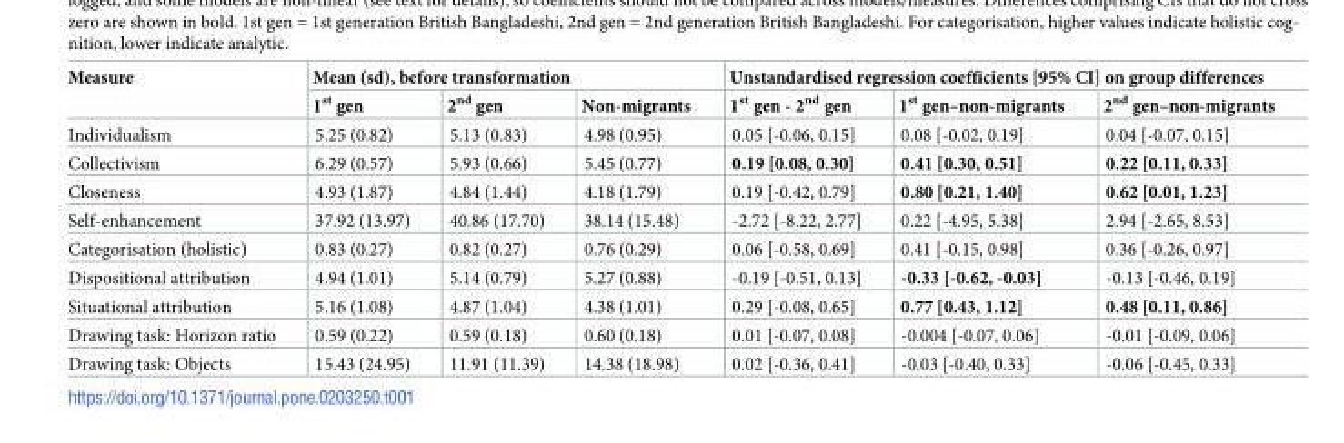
<table><thead><tr><td rowspan="2">Measure</td><td colspan="3">Mean (sd), before transformation</td><td colspan="3">Unstandardised regression coefficients [95% CI] on group differences</td></tr><tr><td>1<sup>st</sup> gen</td><td>2<sup>nd</sup> gen</td><td>Non-migrants</td><td>1<sup>st</sup> gen - 2<sup>nd</sup> gen</td><td>1<sup>st</sup> gen–non-migrants</td><td>2<sup>nd</sup> gen–non-migrants</td></tr></thead><tbody><tr><td>Individualism</td><td>5.25 (0.82)</td><td>5.13 (0.83)</td><td>4.98 (0.95)</td><td>0.05 [-0.06, 0.15]</td><td>0.08 [-0.02, 0.19]</td><td>0.04 [-0.07, 0.15]</td></tr><tr><td>Collectivism</td><td>6.29 (0.57)</td><td>5.93 (0.66)</td><td>5.45 (0.77)</td><td>0.19 [0.08, 0.30]</td><td>0.41 [0.30, 0.51]</td><td>0.22 [0.11, 0.33]</td></tr><tr><td>Closeness</td><td>4.93 (1.87)</td><td>4.84 (1.44)</td><td>4.18 (1.79)</td><td>0.19 [-0.42, 0.79]</td><td>0.80 [0.21, 1.40]</td><td>0.62 [0.01, 1.23]</td></tr><tr><td>Self-enhancement</td><td>37.92 (13.97)</td><td>40.86 (17.70)</td><td>38.14 (15.48)</td><td>-2.72 [-8.22, 2.77]</td><td>0.22 [-4.95, 5.38]</td><td>2.94 [-2.65, 8.53]</td></tr><tr><td>Categorisation (holistic)</td><td>0.83 (0.27)</td><td>0.82 (0.27)</td><td>0.76 (0.29)</td><td>0.06 [-0.58, 0.69]</td><td>0.41 [-0.15, 0.98]</td><td>0.36 [-0.26, 0.97]</td></tr><tr><td>Dispositional attribution</td><td>4.94 (1.01)</td><td>5.14 (0.79)</td><td>5.27 (0.88)</td><td>-0.19 [-0.51, 0.13]</td><td>-0.33 [-0.62, -0.03]</td><td>-0.13 [-0.46, 0.19]</td></tr><tr><td>Situational attribution</td><td>5.16 (1.08)</td><td>4.87 (1.04)</td><td>4.38 (1.01)</td><td>0.29 [-0.08, 0.65]</td><td>0.77 [0.43, 1.12]</td><td>0.48 [0.11, 0.86]</td></tr><tr><td>Drawing task: Horizon ratio</td><td>0.59 (0.22)</td><td>0.59 (0.18)</td><td>0.60 (0.18)</td><td>0.01 [-0.07, 0.08]</td><td>-0.004 [-0.07, 0.06]</td><td>-0.01 [-0.09, 0.06]</td></tr><tr><td>Drawing task: Objects</td><td>15.43 (24.95)</td><td>11.91 (11.39)</td><td>14.38 (18.98)</td><td>0.02 [-0.36, 0.41]</td><td>-0.03 [-0.40, 0.33]</td><td>-0.06 [-0.45, 0.33]</td></tr></tbody></table>